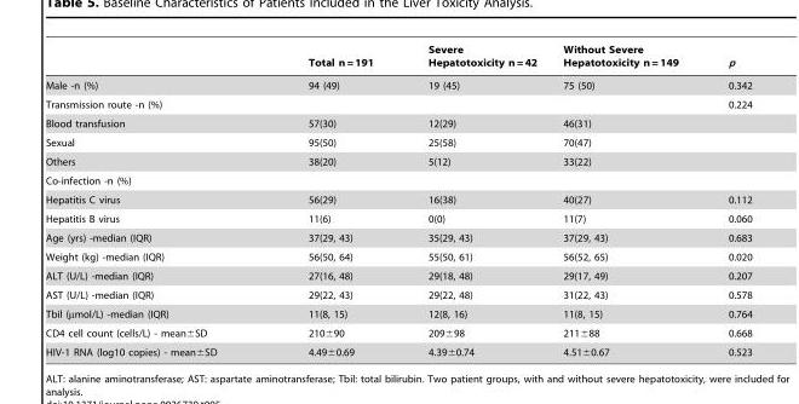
<table><thead><tr><td></td><td>Total n = 191</td><td>Severe Hepatotoxicity n = 42</td><td>Without Severe Hepatotoxicity n = 149</td><td>p</td></tr></thead><tbody><tr><td>Male -n (%)</td><td>94 (49)</td><td>19 (45)</td><td>75 (50)</td><td>0.342</td></tr><tr><td>Transmission route -n (%)</td><td></td><td></td><td></td><td>0.224</td></tr><tr><td>Blood transfusion</td><td>57(30)</td><td>12(29)</td><td>46(31)</td><td></td></tr><tr><td>Sexual</td><td>95(50)</td><td>25(58)</td><td>70(47)</td><td></td></tr><tr><td>Others</td><td>38(20)</td><td>5(12)</td><td>33(22)</td><td></td></tr><tr><td colspan="5">Co-infection -n (%)</td></tr><tr><td>Hepatitis C virus</td><td>56(29)</td><td>16(38)</td><td>40(27)</td><td>0.112</td></tr><tr><td>Hepatitis B virus</td><td>11(6)</td><td>0(0)</td><td>11(7)</td><td>0.060</td></tr><tr><td>Age (yrs) -median (IQR)</td><td>37(29, 43)</td><td>35(29, 43)</td><td>37(29, 43)</td><td>0.683</td></tr><tr><td>Weight (kg) -median (IQR)</td><td>56(50, 64)</td><td>55(50, 61)</td><td>56(52, 65)</td><td>0.020</td></tr><tr><td>ALT (U/L) -median (IQR)</td><td>27(16, 48)</td><td>29(18, 48)</td><td>29(17, 49)</td><td>0.207</td></tr><tr><td>AST (U/L) -median (IQR)</td><td>29(22, 43)</td><td>29(22, 48)</td><td>31(22, 43)</td><td>0.578</td></tr><tr><td>Tbil (µmol/L) -median (IQR)</td><td>11(8, 15)</td><td>12(8, 16)</td><td>11(8, 15)</td><td>0.764</td></tr><tr><td>CD4 cell count (cells/L) - mean±SD</td><td>210±90</td><td>209±98</td><td>211±88</td><td>0.668</td></tr><tr><td>HIV-1 RNA (log10 copies) - mean±SD</td><td>4.49±0.69</td><td>4.39±0.74</td><td>4.51±0.67</td><td>0.523</td></tr></tbody></table>